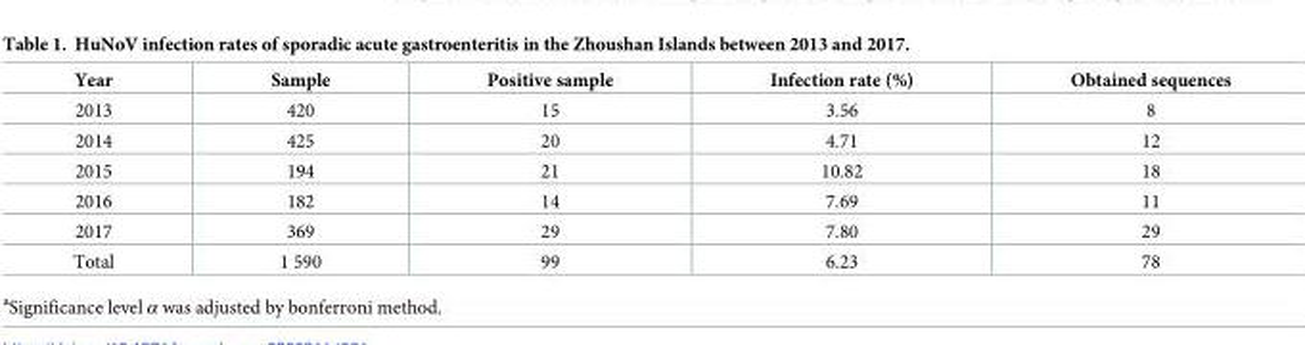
<table><thead><tr><td>Year</td><td>Sample</td><td>Positive sample</td><td>Infection rate (%)</td><td>Obtained sequences</td></tr></thead><tbody><tr><td>2013</td><td>420</td><td>15</td><td>3.56</td><td>8</td></tr><tr><td>2014</td><td>425</td><td>20</td><td>4.71</td><td>12</td></tr><tr><td>2015</td><td>194</td><td>21</td><td>10.82</td><td>18</td></tr><tr><td>2016</td><td>182</td><td>14</td><td>7.69</td><td>11</td></tr><tr><td>2017</td><td>369</td><td>29</td><td>7.80</td><td>29</td></tr><tr><td>Total</td><td>1 590</td><td>99</td><td>6.23</td><td>78</td></tr></tbody></table>